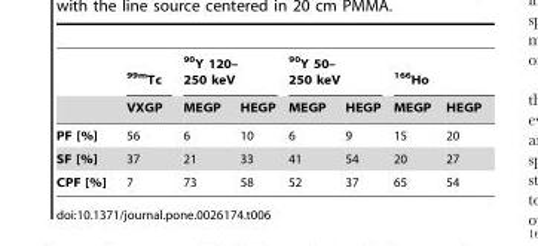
<table><thead><tr><td rowspan="2"></td><td rowspan="2"><sup>99m</sup>Tc VXGP</td><td colspan="2"><sup>90</sup>Y 120– 250 keV</td><td colspan="2"><sup>90</sup>Y 50– 250 keV</td><td colspan="2"><sup>166</sup>Ho</td></tr><tr><td>MEGP</td><td>HEGP</td><td>MEGP</td><td>HEGP</td><td>MEGP</td><td>HEGP</td></tr></thead><tbody><tr><td>PF [%]</td><td>56</td><td>6</td><td>10</td><td>6</td><td>9</td><td>15</td><td>20</td></tr><tr><td>SF [%]</td><td>37</td><td>21</td><td>33</td><td>41</td><td>54</td><td>20</td><td>27</td></tr><tr><td>CPF [%]</td><td>7</td><td>73</td><td>58</td><td>52</td><td>37</td><td>65</td><td>54</td></tr></tbody></table>